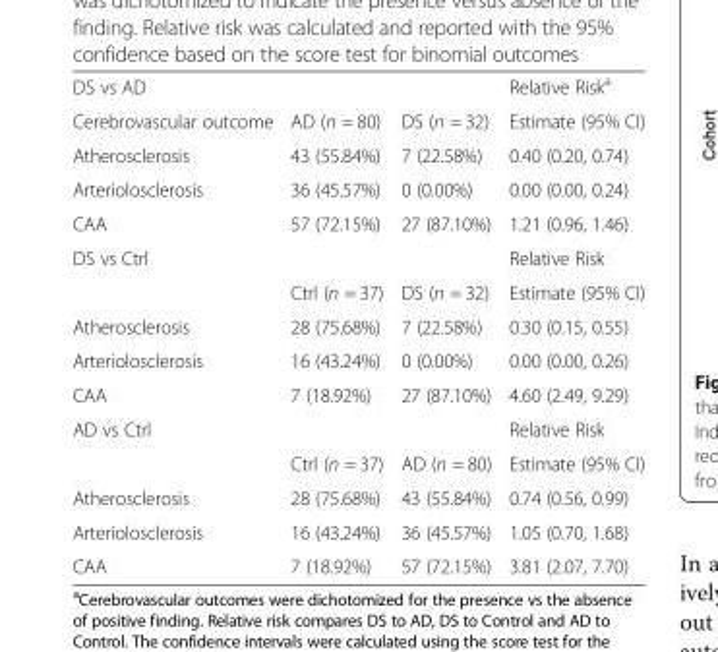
<table><tbody><tr><td>DS vs AD</td><td></td><td></td><td>Relative Risk<sup>a</sup></td></tr><tr><td>Cerebrovascular outcome</td><td>AD (n = 80)</td><td>DS (n = 32)</td><td>Estimate (95% CI)</td></tr><tr><td>Atherosclerosis</td><td>43 (55.84%)</td><td>7 (22.58%)</td><td>0.40 (0.20, 0.74)</td></tr><tr><td>Arteriolosclerosis</td><td>36 (45.57%)</td><td>0 (0.00%)</td><td>0.00 (0.00, 0.24)</td></tr><tr><td>CAA</td><td>57 (72.15%)</td><td>27 (87.10%)</td><td>1.21 (0.96, 1.46)</td></tr><tr><td rowspan="2">DS vs Ctrl</td><td></td><td></td><td>Relative Risk</td></tr><tr><td>Ctrl (n = 37)</td><td>DS (n = 32)</td><td>Estimate (95% CI)</td></tr><tr><td>Atherosclerosis</td><td>28 (75.68%)</td><td>7 (22.58%)</td><td>0.30 (0.15, 0.55)</td></tr><tr><td>Arteriolosclerosis</td><td>16 (43.24%)</td><td>0 (0.00%)</td><td>0.00 (0.00, 0.26)</td></tr><tr><td>CAA</td><td>7 (18.92%)</td><td>27 (87.10%)</td><td>4.60 (2.49, 9.29)</td></tr><tr><td rowspan="2">AD vs Ctrl</td><td></td><td></td><td>Relative Risk</td></tr><tr><td>Ctrl (n = 37)</td><td>AD (n = 80)</td><td>Estimate (95% CI)</td></tr><tr><td>Atherosclerosis</td><td>28 (75.68%)</td><td>43 (55.84%)</td><td>0.74 (0.56, 0.99)</td></tr><tr><td>Arteriolosclerosis</td><td>16 (43.24%)</td><td>36 (45.57%)</td><td>1.05 (0.70, 1.68)</td></tr><tr><td>CAA</td><td>7 (18.92%)</td><td>57 (72.15%)</td><td>3.81 (2.07, 7.70)</td></tr></tbody></table>